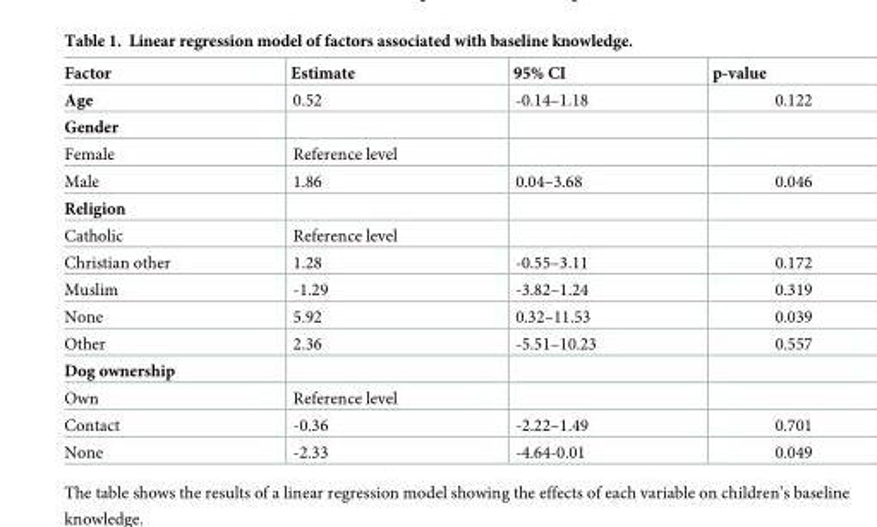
<table><thead><tr><td>Factor</td><td>Estimate</td><td>95% CI</td><td>p-value</td></tr></thead><tbody><tr><td>Age</td><td>0.52</td><td>-0.14–1.18</td><td>0.122</td></tr><tr><td colspan="4">Gender</td></tr><tr><td>Female</td><td>Reference level</td><td></td><td></td></tr><tr><td>Male</td><td>1.86</td><td>0.04–3.68</td><td>0.046</td></tr><tr><td colspan="4">Religion</td></tr><tr><td>Catholic</td><td>Reference level</td><td></td><td></td></tr><tr><td>Christian other</td><td>1.28</td><td>-0.55–3.11</td><td>0.172</td></tr><tr><td>Muslim</td><td>-1.29</td><td>-3.82–1.24</td><td>0.319</td></tr><tr><td>None</td><td>5.92</td><td>0.32–11.53</td><td>0.039</td></tr><tr><td>Other</td><td>2.36</td><td>-5.51–10.23</td><td>0.557</td></tr><tr><td colspan="4">Dog ownership</td></tr><tr><td>Own</td><td>Reference level</td><td></td><td></td></tr><tr><td>Contact</td><td>-0.36</td><td>-2.22–1.49</td><td>0.701</td></tr><tr><td>None</td><td>-2.33</td><td>-4.64-0.01</td><td>0.049</td></tr></tbody></table>